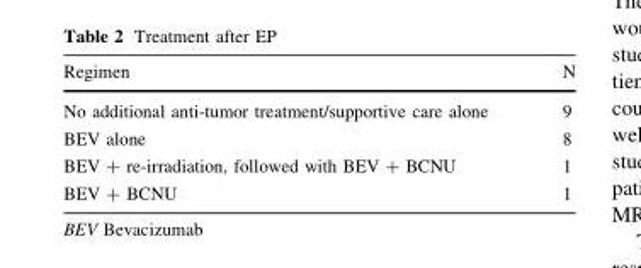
<table><thead><tr><td>Regimen</td><td>N</td></tr></thead><tbody><tr><td>No additional anti-tumor treatment/supportive care alone</td><td>9</td></tr><tr><td>BEV alone</td><td>8</td></tr><tr><td>BEV + re-irradiation, followed with BEV + BCNU</td><td>1</td></tr><tr><td>BEV + BCNU</td><td>1</td></tr></tbody></table>